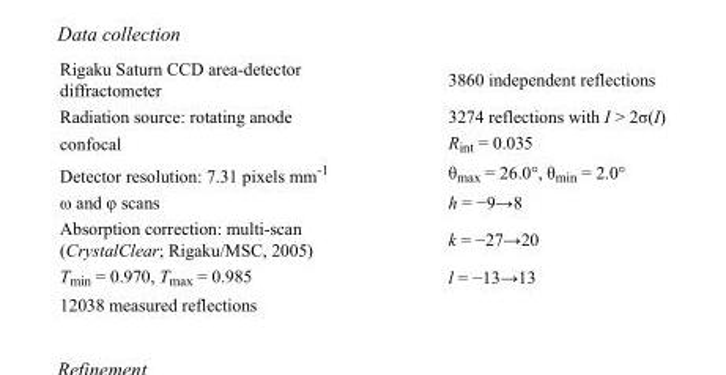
<table><tbody><tr><td>Rigaku Saturn CCD area-detector diffractometer</td><td>3860 independent reflections</td></tr><tr><td>Radiation source: rotating anode</td><td>3274 reflections with I &gt; 2σ(I)</td></tr><tr><td>confocal</td><td>R<sub>int</sub> = 0.035</td></tr><tr><td>Detector resolution: 7.31 pixels mm<sup>-1</sup></td><td>θ<sub>max</sub> = 26.0°, θ<sub>min</sub> = 2.0°</td></tr><tr><td>ω and φ scans</td><td>h = −9→8</td></tr><tr><td>Absorption correction: multi-scan (CrystalClear; Rigaku/MSC, 2005)</td><td>k = −27→20</td></tr><tr><td>T<sub>min</sub> = 0.970, T<sub>max</sub> = 0.985</td><td>l = −13→13</td></tr><tr><td>12038 measured reflections</td><td></td></tr></tbody></table>